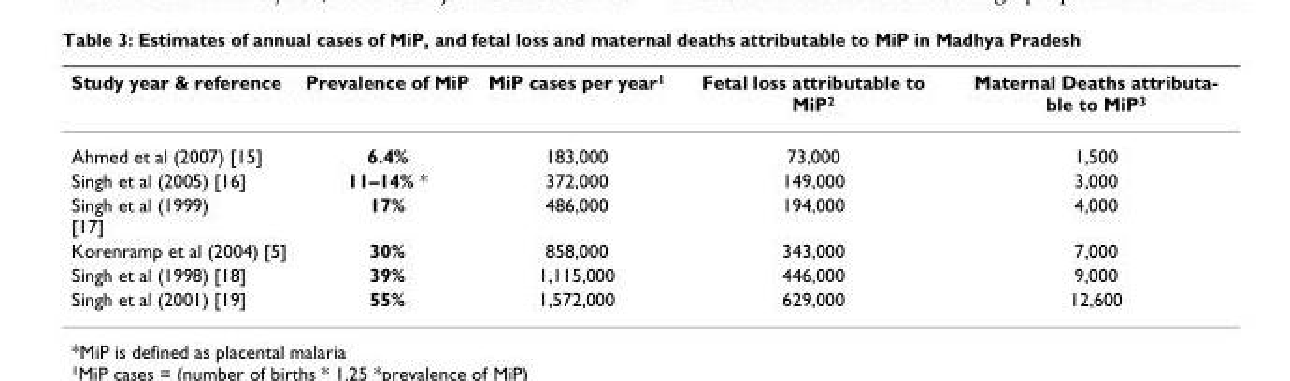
<table><thead><tr><td>Study year &amp; reference</td><td>Prevalence of MiP</td><td>MiP cases per year<sup>1</sup></td><td>Fetal loss attributable to MiP<sup>2</sup></td><td>Maternal Deaths attributa- ble to MiP3</td></tr></thead><tbody><tr><td>Ahmed et al (2007) [15]</td><td>6.4%</td><td>183,000</td><td>73,000</td><td>1,500</td></tr><tr><td>Singh et al (2005) [16]</td><td>11–14% *</td><td>372,000</td><td>149,000</td><td>3,000</td></tr><tr><td>Singh et al (1999) [17]</td><td>17%</td><td>486,000</td><td>194,000</td><td>4,000</td></tr><tr><td>Korenramp et al (2004) [5]</td><td>30%</td><td>858,000</td><td>343,000</td><td>7,000</td></tr><tr><td>Singh et al (1998) [18]</td><td>39%</td><td>1,115,000</td><td>446,000</td><td>9,000</td></tr><tr><td>Singh et al (2001) [19]</td><td>55%</td><td>1,572,000</td><td>629,000</td><td>12,600</td></tr></tbody></table>